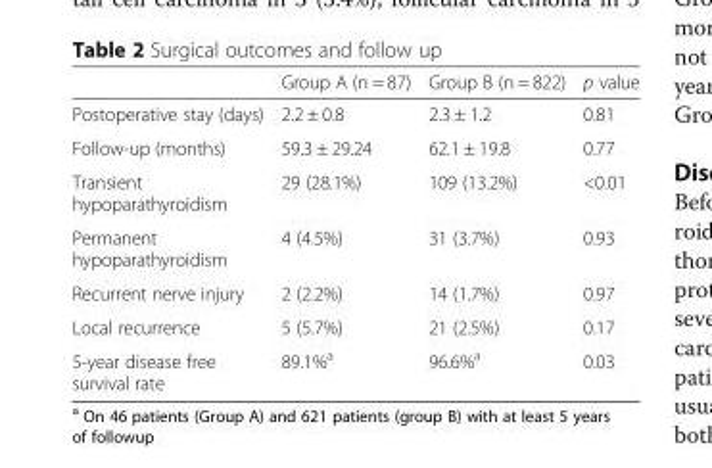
<table><thead><tr><td></td><td>Group A (n = 87)</td><td>Group B (n = 822)</td><td>p value</td></tr></thead><tbody><tr><td>Postoperative stay (days)</td><td>2.2 ± 0.8</td><td>2.3 ± 1.2</td><td>0.81</td></tr><tr><td>Follow-up (months)</td><td>59.3 ± 29.24</td><td>62.1 ± 19.8</td><td>0.77</td></tr><tr><td>Transient hypoparathyroidism</td><td>29 (28.1%)</td><td>109 (13.2%)</td><td>&lt;0.01</td></tr><tr><td>Permanent hypoparathyroidism</td><td>4 (4.5%)</td><td>31 (3.7%)</td><td>0.93</td></tr><tr><td>Recurrent nerve injury</td><td>2 (2.2%)</td><td>14 (1.7%)</td><td>0.97</td></tr><tr><td>Local recurrence</td><td>5 (5.7%)</td><td>21 (2.5%)</td><td>0.17</td></tr><tr><td>5-year disease free survival rate</td><td>89.1%<sup>a</sup></td><td>96.6%<sup>a</sup></td><td>0.03</td></tr></tbody></table>